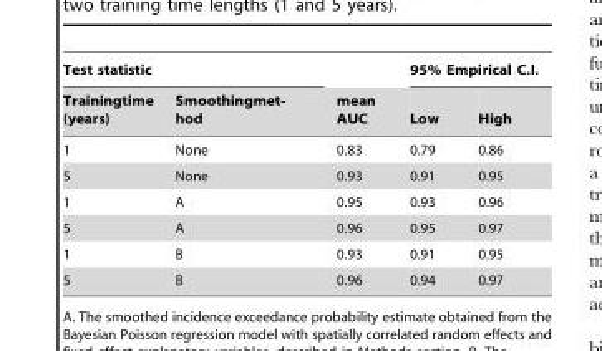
<table><thead><tr><td colspan="2">Test statistic</td><td rowspan="2">mean AUC</td><td colspan="2">95% Empirical C.I.</td></tr><tr><td>Trainingtime (years)</td><td>Smoothingmet- hod</td><td>Low</td><td>High</td></tr></thead><tbody><tr><td>1</td><td>None</td><td>0.83</td><td>0.79</td><td>0.86</td></tr><tr><td>5</td><td>None</td><td>0.93</td><td>0.91</td><td>0.95</td></tr><tr><td>1</td><td>A</td><td>0.95</td><td>0.93</td><td>0.96</td></tr><tr><td>5</td><td>A</td><td>0.96</td><td>0.95</td><td>0.97</td></tr><tr><td>1</td><td>B</td><td>0.93</td><td>0.91</td><td>0.95</td></tr><tr><td>5</td><td>B</td><td>0.96</td><td>0.94</td><td>0.97</td></tr></tbody></table>